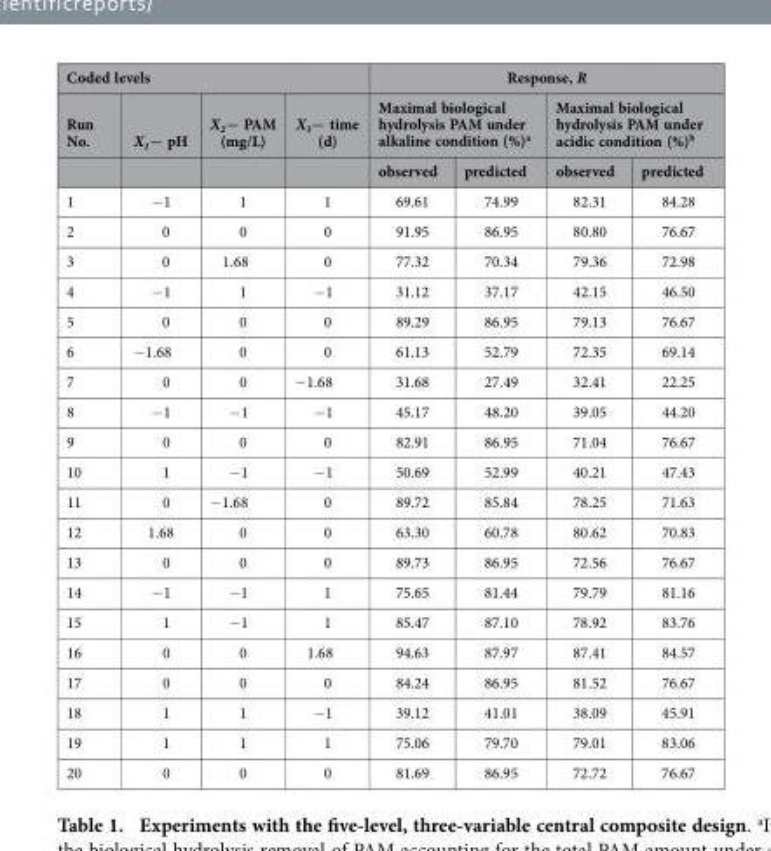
<table><thead><tr><td colspan="4">Coded levels</td><td colspan="4">Response, R</td></tr><tr><td rowspan="2">Run No.</td><td rowspan="2">X<sub>1</sub>− pH</td><td rowspan="2">X<sub>2</sub>− PAM (mg/L)</td><td rowspan="2">X<sub>3</sub>− time (d)</td><td colspan="2">Maximal biological hydrolysis PAM under alkaline condition (%)<sup>a</sup></td><td colspan="2">Maximal biological hydrolysis PAM under acidic condition (%)<sup>b</sup></td></tr><tr><td>observed</td><td>predicted</td><td>observed</td><td>predicted</td></tr></thead><tbody><tr><td>1</td><td>−1</td><td>1</td><td>1</td><td>69.61</td><td>74.99</td><td>82.31</td><td>84.28</td></tr><tr><td>2</td><td>0</td><td>0</td><td>0</td><td>91.95</td><td>86.95</td><td>80.80</td><td>76.67</td></tr><tr><td>3</td><td>0</td><td>1.68</td><td>0</td><td>77.32</td><td>70.34</td><td>79.36</td><td>72.98</td></tr><tr><td>4</td><td>−1</td><td>1</td><td>−1</td><td>31.12</td><td>37.17</td><td>42.15</td><td>46.50</td></tr><tr><td>5</td><td>0</td><td>0</td><td>0</td><td>89.29</td><td>86.95</td><td>79.13</td><td>76.67</td></tr><tr><td>6</td><td>−1.68</td><td>0</td><td>0</td><td>61.13</td><td>52.79</td><td>72.35</td><td>69.14</td></tr><tr><td>7</td><td>0</td><td>0</td><td>−1.68</td><td>31.68</td><td>27.49</td><td>32.41</td><td>22.25</td></tr><tr><td>8</td><td>−1</td><td>−1</td><td>−1</td><td>45.17</td><td>48.20</td><td>39.05</td><td>44.20</td></tr><tr><td>9</td><td>0</td><td>0</td><td>0</td><td>82.91</td><td>86.95</td><td>71.04</td><td>76.67</td></tr><tr><td>10</td><td>1</td><td>−1</td><td>−1</td><td>50.69</td><td>52.99</td><td>40.21</td><td>47.43</td></tr><tr><td>11</td><td>0</td><td>−1.68</td><td>0</td><td>89.72</td><td>85.84</td><td>78.25</td><td>71.63</td></tr><tr><td>12</td><td>1.68</td><td>0</td><td>0</td><td>63.30</td><td>60.78</td><td>80.62</td><td>70.83</td></tr><tr><td>13</td><td>0</td><td>0</td><td>0</td><td>89.73</td><td>86.95</td><td>72.56</td><td>76.67</td></tr><tr><td>14</td><td>−1</td><td>−1</td><td>1</td><td>75.65</td><td>81.44</td><td>79.79</td><td>81.16</td></tr><tr><td>15</td><td>1</td><td>−1</td><td>1</td><td>85.47</td><td>87.10</td><td>78.92</td><td>83.76</td></tr><tr><td>16</td><td>0</td><td>0</td><td>1.68</td><td>94.63</td><td>87.97</td><td>87.41</td><td>84.57</td></tr><tr><td>17</td><td>0</td><td>0</td><td>0</td><td>84.24</td><td>86.95</td><td>81.52</td><td>76.67</td></tr><tr><td>18</td><td>1</td><td>1</td><td>−1</td><td>39.12</td><td>41.01</td><td>38.09</td><td>45.91</td></tr><tr><td>19</td><td>1</td><td>1</td><td>1</td><td>75.06</td><td>79.70</td><td>79.01</td><td>83.06</td></tr><tr><td>20</td><td>0</td><td>0</td><td>0</td><td>81.69</td><td>86.95</td><td>72.72</td><td>76.67</td></tr></tbody></table>